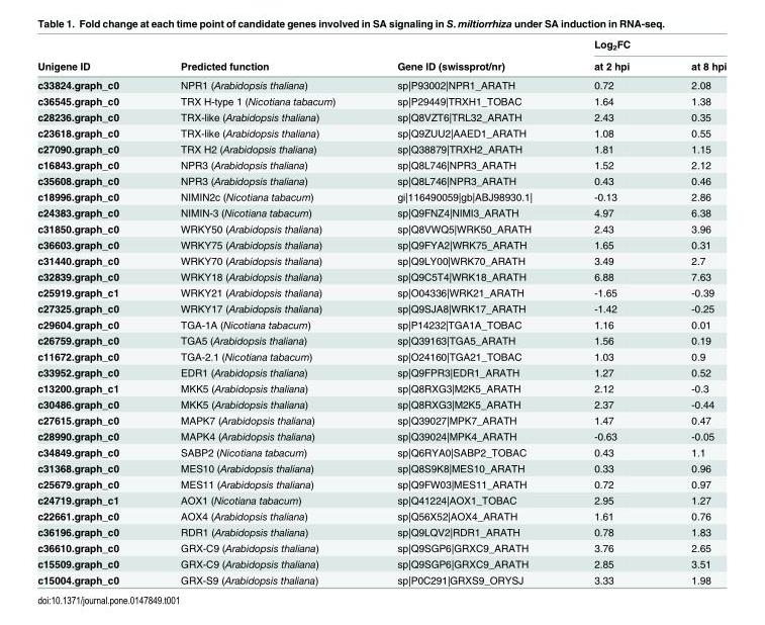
<table><thead><tr><td rowspan="2">Unigene ID</td><td rowspan="2">Predicted function</td><td rowspan="2">Gene ID (swissprot/nr)</td><td colspan="2">Log<sub>2</sub>FC</td></tr><tr><td>at 2 hpi</td><td>at 8 hpi</td></tr></thead><tbody><tr><td>c33824.graph_c0</td><td>NPR1 (Arabidopsis thaliana)</td><td>sp|P93002|NPR1_ARATH</td><td>0.72</td><td>2.08</td></tr><tr><td>c36545.graph_c0</td><td>TRX H-type 1 (Nicotiana tabacum)</td><td>sp|P29449|TRXH1_TOBAC</td><td>1.64</td><td>1.38</td></tr><tr><td>c28236.graph_c0</td><td>TRX-like (Arabidopsis thaliana)</td><td>sp|Q8VZT6|TRL32_ARATH</td><td>2.43</td><td>0.35</td></tr><tr><td>c23618.graph_c0</td><td>TRX-like (Arabidopsis thaliana)</td><td>sp|Q9ZUU2|AAED1_ARATH</td><td>1.08</td><td>0.55</td></tr><tr><td>c27090.graph_c0</td><td>TRX H2 (Arabidopsis thaliana)</td><td>sp|Q38879|TRXH2_ARATH</td><td>1.81</td><td>1.15</td></tr><tr><td>c16843.graph_c0</td><td>NPR3 (Arabidopsis thaliana)</td><td>sp|Q8L746|NPR3_ARATH</td><td>1.52</td><td>2.12</td></tr><tr><td>c35608.graph_c0</td><td>NPR3 (Arabidopsis thaliana)</td><td>sp|Q8L746|NPR3_ARATH</td><td>0.43</td><td>0.46</td></tr><tr><td>c18996.graph_c0</td><td>NIMIN2c (Nicotiana tabacum)</td><td>gi|116490059|gb|ABJ98930.1|</td><td>-0.13</td><td>2.86</td></tr><tr><td>c24383.graph_c0</td><td>NIMIN-3 (Nicotiana tabacum)</td><td>sp|Q9FNZ4|NIMI3_ARATH</td><td>4.97</td><td>6.38</td></tr><tr><td>c31850.graph_c0</td><td>WRKY50 (Arabidopsis thaliana)</td><td>sp|Q8VWQ5|WRK50_ARATH</td><td>2.43</td><td>3.96</td></tr><tr><td>c36603.graph_c0</td><td>WRKY75 (Arabidopsis thaliana)</td><td>sp|Q9FYA2|WRK75_ARATH</td><td>1.65</td><td>0.31</td></tr><tr><td>c31440.graph_c0</td><td>WRKY70 (Arabidopsis thaliana)</td><td>sp|Q9LY00|WRK70_ARATH</td><td>3.49</td><td>2.7</td></tr><tr><td>c32839.graph_c0</td><td>WRKY18 (Arabidopsis thaliana)</td><td>sp|Q9C5T4|WRK18_ARATH</td><td>6.88</td><td>7.63</td></tr><tr><td>c25919.graph_c1</td><td>WRKY21 (Arabidopsis thaliana)</td><td>sp|O04336|WRK21_ARATH</td><td>-1.65</td><td>-0.39</td></tr><tr><td>c27325.graph_c0</td><td>WRKY17 (Arabidopsis thaliana)</td><td>sp|Q9SJA8|WRK17_ARATH</td><td>-1.42</td><td>-0.25</td></tr><tr><td>c29604.graph_c0</td><td>TGA-1A (Nicotiana tabacum)</td><td>sp|P14232|TGA1A_TOBAC</td><td>1.16</td><td>0.01</td></tr><tr><td>c26759.graph_c0</td><td>TGA5 (Arabidopsis thaliana)</td><td>sp|Q39163|TGA5_ARATH</td><td>1.56</td><td>0.19</td></tr><tr><td>c11672.graph_c0</td><td>TGA-2.1 (Nicotiana tabacum)</td><td>sp|O24160|TGA21_TOBAC</td><td>1.03</td><td>0.9</td></tr><tr><td>c33952.graph_c0</td><td>EDR1 (Arabidopsis thaliana)</td><td>sp|Q9FPR3|EDR1_ARATH</td><td>1.27</td><td>0.52</td></tr><tr><td>c13200.graph_c1</td><td>MKK5 (Arabidopsis thaliana)</td><td>sp|Q8RXG3|M2K5_ARATH</td><td>2.12</td><td>-0.3</td></tr><tr><td>c30486.graph_c0</td><td>MKK5 (Arabidopsis thaliana)</td><td>sp|Q8RXG3|M2K5_ARATH</td><td>2.37</td><td>-0.44</td></tr><tr><td>c27615.graph_c0</td><td>MAPK7 (Arabidopsis thaliana)</td><td>sp|Q39027|MPK7_ARATH</td><td>1.47</td><td>0.47</td></tr><tr><td>c28990.graph_c0</td><td>MAPK4 (Arabidopsis thaliana)</td><td>sp|Q39024|MPK4_ARATH</td><td>-0.63</td><td>-0.05</td></tr><tr><td>c34849.graph_c0</td><td>SABP2 (Nicotiana tabacum)</td><td>sp|Q6RYA0|SABP2_TOBAC</td><td>0.43</td><td>1.1</td></tr><tr><td>c31368.graph_c0</td><td>MES10 (Arabidopsis thaliana)</td><td>sp|Q8S9K8|MES10_ARATH</td><td>0.33</td><td>0.96</td></tr><tr><td>c25679.graph_c0</td><td>MES11 (Arabidopsis thaliana)</td><td>sp|Q9FW03|MES11_ARATH</td><td>0.72</td><td>0.97</td></tr><tr><td>c24719.graph_c1</td><td>AOX1 (Nicotiana tabacum)</td><td>sp|Q41224|AOX1_TOBAC</td><td>2.95</td><td>1.27</td></tr><tr><td>c22661.graph_c0</td><td>AOX4 (Arabidopsis thaliana)</td><td>sp|Q56X52|AOX4_ARATH</td><td>1.61</td><td>0.76</td></tr><tr><td>c36196.graph_c0</td><td>RDR1 (Arabidopsis thaliana)</td><td>sp|Q9LQV2|RDR1_ARATH</td><td>0.78</td><td>1.83</td></tr><tr><td>c36610.graph_c0</td><td>GRX-C9 (Arabidopsis thaliana)</td><td>sp|Q9SGP6|GRXC9_ARATH</td><td>3.76</td><td>2.65</td></tr><tr><td>c15509.graph_c0</td><td>GRX-C9 (Arabidopsis thaliana)</td><td>sp|Q9SGP6|GRXC9_ARATH</td><td>2.85</td><td>3.51</td></tr><tr><td>c15004.graph_c0</td><td>GRX-S9 (Arabidopsis thaliana)</td><td>sp|P0C291|GRXS9_ORYSJ</td><td>3.33</td><td>1.98</td></tr></tbody></table>